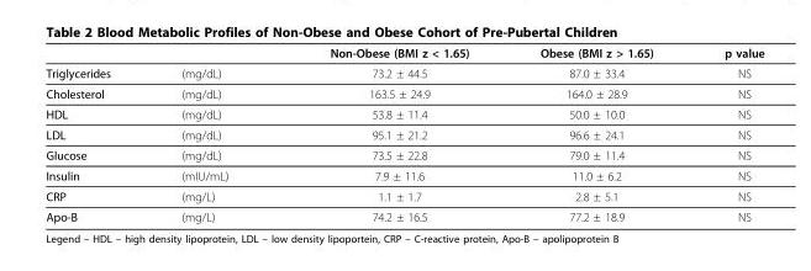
<table><thead><tr><td></td><td></td><td>Non-Obese (BMI z &lt; 1.65)</td><td>Obese (BMI z &gt; 1.65)</td><td>p value</td></tr></thead><tbody><tr><td>Triglycerides</td><td>(mg/dL)</td><td>73.2 ± 44.5</td><td>87.0 ± 33.4</td><td>NS</td></tr><tr><td>Cholesterol</td><td>(mg/dL)</td><td>163.5 ± 24.9</td><td>164.0 ± 28.9</td><td>NS</td></tr><tr><td>HDL</td><td>(mg/dL)</td><td>53.8 ± 11.4</td><td>50.0 ± 10.0</td><td>NS</td></tr><tr><td>LDL</td><td>(mg/dL)</td><td>95.1 ± 21.2</td><td>96.6 ± 24.1</td><td>NS</td></tr><tr><td>Glucose</td><td>(mg/dL)</td><td>73.5 ± 22.8</td><td>79.0 ± 11.4</td><td>NS</td></tr><tr><td>Insulin</td><td>(mIU/mL)</td><td>7.9 ± 11.6</td><td>11.0 ± 6.2</td><td>NS</td></tr><tr><td>CRP</td><td>(mg/L)</td><td>1.1 ± 1.7</td><td>2.8 ± 5.1</td><td>NS</td></tr><tr><td>Apo-B</td><td>(mg/L)</td><td>74.2 ± 16.5</td><td>77.2 ± 18.9</td><td>NS</td></tr></tbody></table>